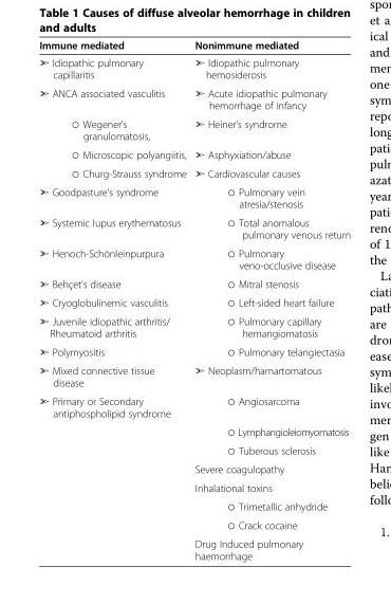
<table><thead><tr><td>Immune mediated</td><td>Nonimmune mediated</td></tr></thead><tbody><tr><td>➣ Idiopathic pulmonary capillaritis</td><td>➣ Idiopathic pulmonary hemosiderosis</td></tr><tr><td>➣ ANCA associated vasculitis</td><td>➣ Acute idiopathic pulmonary hemorrhage of infancy</td></tr><tr><td>○ Wegener’s granulomatosis,</td><td>➣ Heiner’s syndrome</td></tr><tr><td>○ Microscopic polyangiitis,</td><td>➣ Asphyxiation/abuse</td></tr><tr><td>○ Churg-Strauss syndrome</td><td>➣ Cardiovascular causes</td></tr><tr><td>➣ Goodpasture’s syndrome</td><td>○ Pulmonary vein atresia/stenosis</td></tr><tr><td>➣ Systemic lupus erythematosus</td><td>○ Total anomalous pulmonary venous return</td></tr><tr><td>➣ Henoch-Schönleinpurpura</td><td>○ Pulmonary veno-occlusive disease</td></tr><tr><td>➣ Behçet’s disease</td><td>○ Mitral stenosis</td></tr><tr><td>➣ Cryoglobulinemic vasculitis</td><td>○ Left-sided heart failure</td></tr><tr><td>➣ Juvenile idiopathic arthritis/ Rheumatoid arthritis</td><td>○ Pulmonary capillary hemangiomatosis</td></tr><tr><td>➣ Polymyositis</td><td>○ Pulmonary telangiectasia</td></tr><tr><td>➣ Mixed connective tissue disease</td><td>➣ Neoplasm/hamartomatous</td></tr><tr><td rowspan="8">➣ Primary or Secondary antiphospholipid syndrome</td><td>○ Angiosarcoma</td></tr><tr><td>○ Lymphangioleiomyomatosis</td></tr><tr><td>○ Tuberous sclerosis</td></tr><tr><td>Severe coagulopathy</td></tr><tr><td>Inhalational toxins</td></tr><tr><td>○ Trimetallic anhydride</td></tr><tr><td>○ Crack cocaine</td></tr><tr><td>Drug Induced pulmonary haemorrhage</td></tr></tbody></table>